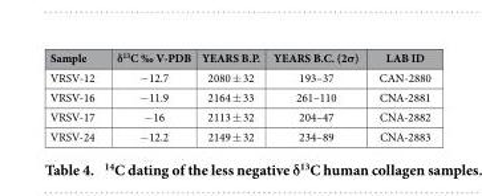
<table><thead><tr><td>Sample</td><td>δ<sup>13</sup>C ‰ V-PDB</td><td>YEARS B.P.</td><td>YEARS B.C. (2σ)</td><td>LAB ID</td></tr></thead><tbody><tr><td>VRSV-12</td><td>− 12.7</td><td>2080 ± 32</td><td>193–37</td><td>CAN-2880</td></tr><tr><td>VRSV-16</td><td>− 11.9</td><td>2164 ± 33</td><td>261–110</td><td>CNA-2881</td></tr><tr><td>VRSV-17</td><td>− 16</td><td>2113 ± 32</td><td>204–47</td><td>CNA-2882</td></tr><tr><td>VRSV-24</td><td>− 12.2</td><td>2149 ± 32</td><td>234–89</td><td>CNA-2883</td></tr></tbody></table>